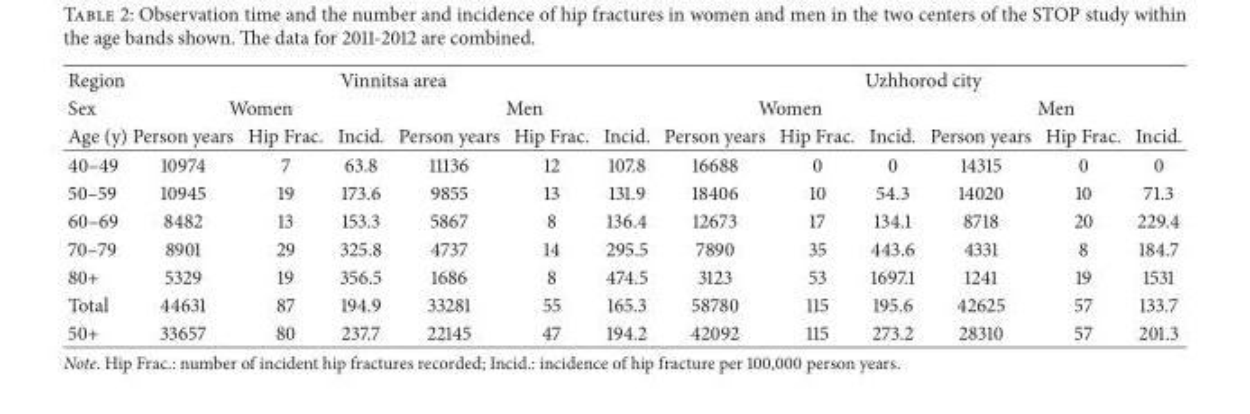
<table><thead><tr><td rowspan="3">Region Sex Age (y)</td><td colspan="6">Vinnitsa area</td><td colspan="6">Uzhhorod city</td></tr><tr><td colspan="3">Women</td><td colspan="3">Men</td><td colspan="3">Women</td><td colspan="3">Men</td></tr><tr><td>Person years</td><td>Hip Frac.</td><td>Incid.</td><td>Person years</td><td>Hip Frac.</td><td>Incid.</td><td>Person years</td><td>Hip Frac.</td><td>Incid.</td><td>Person years</td><td>Hip Frac.</td><td>Incid.</td></tr></thead><tbody><tr><td>40–49</td><td>10974</td><td>7</td><td>63.8</td><td>11136</td><td>12</td><td>107.8</td><td>16688</td><td>0</td><td>0</td><td>14315</td><td>0</td><td>0</td></tr><tr><td>50–59</td><td>10945</td><td>19</td><td>173.6</td><td>9855</td><td>13</td><td>131.9</td><td>18406</td><td>10</td><td>54.3</td><td>14020</td><td>10</td><td>71.3</td></tr><tr><td>60–69</td><td>8482</td><td>13</td><td>153.3</td><td>5867</td><td>8</td><td>136.4</td><td>12673</td><td>17</td><td>134.1</td><td>8718</td><td>20</td><td>229.4</td></tr><tr><td>70–79</td><td>8901</td><td>29</td><td>325.8</td><td>4737</td><td>14</td><td>295.5</td><td>7890</td><td>35</td><td>443.6</td><td>4331</td><td>8</td><td>184.7</td></tr><tr><td>80+</td><td>5329</td><td>19</td><td>356.5</td><td>1686</td><td>8</td><td>474.5</td><td>3123</td><td>53</td><td>1697.1</td><td>1241</td><td>19</td><td>1531</td></tr><tr><td>Total</td><td>44631</td><td>87</td><td>194.9</td><td>33281</td><td>55</td><td>165.3</td><td>58780</td><td>115</td><td>195.6</td><td>42625</td><td>57</td><td>133.7</td></tr><tr><td>50+</td><td>33657</td><td>80</td><td>237.7</td><td>22145</td><td>47</td><td>194.2</td><td>42092</td><td>115</td><td>273.2</td><td>28310</td><td>57</td><td>201.3</td></tr></tbody></table>